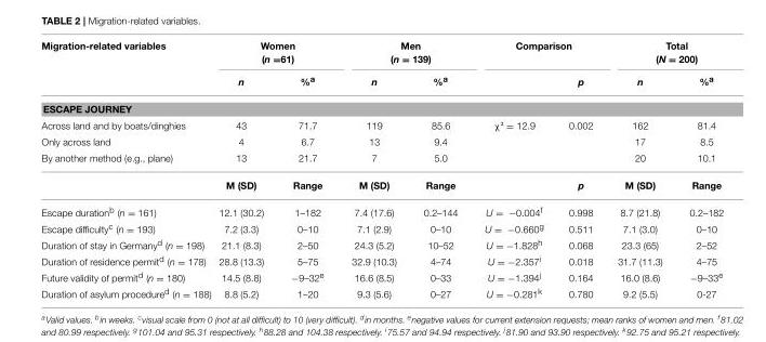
<table><thead><tr><td rowspan="2">Migration-related variables</td><td colspan="2">Women (n =61)</td><td colspan="2">Men (n = 139)</td><td colspan="2">Comparison</td><td colspan="2">Total (N = 200)</td></tr><tr><td>n</td><td>%<sup>a</sup></td><td>n</td><td>%<sup>a</sup></td><td></td><td>p</td><td>n</td><td>%<sup>a</sup></td></tr></thead><tbody><tr><td colspan="9">ESCAPE JOURNEY</td></tr><tr><td>Across land and by boats/dinghies</td><td>43</td><td>71.7</td><td>119</td><td>85.6</td><td>χ² = 12.9</td><td>0.002</td><td>162</td><td>81.4</td></tr><tr><td>Only across land</td><td>4</td><td>6.7</td><td>13</td><td>9.4</td><td></td><td></td><td>17</td><td>8.5</td></tr><tr><td rowspan="2">By another method (e.g., plane)</td><td>13</td><td>21.7</td><td>7</td><td>5.0</td><td></td><td></td><td>20</td><td>10.1</td></tr><tr><td>M (SD)</td><td>Range</td><td>M (SD)</td><td>Range</td><td></td><td>p</td><td>M (SD)</td><td>Range</td></tr><tr><td>Escape duration<sup>b</sup> (n = 161)</td><td>12.1 (30.2)</td><td>1–182</td><td>7.4 (17.6)</td><td>0.2–144</td><td>U = −0.004<sup>f</sup></td><td>0.998</td><td>8.7 (21.8)</td><td>0.2–182</td></tr><tr><td>Escape difficulty<sup>c</sup> (n = 193)</td><td>7.2 (3.3)</td><td>0–10</td><td>7.1 (2.9)</td><td>0–10</td><td>U = −0.660<sup>g</sup></td><td>0.511</td><td>7.1 (3.0)</td><td>0–10</td></tr><tr><td>Duration of stay in Germany<sup>d</sup> (n = 198)</td><td>21.1 (8.3)</td><td>2–50</td><td>24.3 (5.2)</td><td>10–52</td><td>U = −1.828<sup>h</sup></td><td>0.068</td><td>23.3 (65)</td><td>2–52</td></tr><tr><td>Duration of residence permit<sup>d</sup> (n = 178)</td><td>28.8 (13.3)</td><td>5–75</td><td>32.9 (10.3)</td><td>4–74</td><td>U = −2.357<sup>i</sup></td><td>0.018</td><td>31.7 (11.3)</td><td>4–75</td></tr><tr><td>Future validity of permit<sup>d</sup> (n = 180)</td><td>14.5 (8.8)</td><td>−9–32<sup>e</sup></td><td>16.6 (8.5)</td><td>0–33</td><td>U = −1.394<sup>j</sup></td><td>0.164</td><td>16.0 (8.6)</td><td>−9–33<sup>e</sup></td></tr><tr><td>Duration of asylum procedure<sup>d</sup> (n = 188)</td><td>8.8 (5.2)</td><td>1–20</td><td>9.3 (5.6)</td><td>0–27</td><td>U = −0.281<sup>k</sup></td><td>0.780</td><td>9.2 (5.5)</td><td>0-27</td></tr></tbody></table>